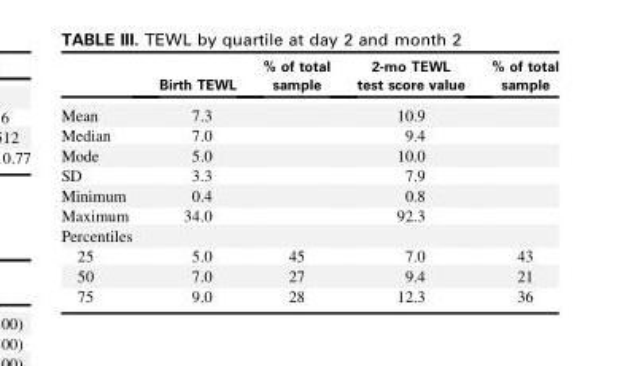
<table><thead><tr><td></td><td>Birth TEWL</td><td>% of total sample</td><td>2-mo TEWL test score value</td><td>% of total sample</td></tr></thead><tbody><tr><td>Mean</td><td>7.3</td><td></td><td>10.9</td><td></td></tr><tr><td>Median</td><td>7.0</td><td></td><td>9.4</td><td></td></tr><tr><td>Mode</td><td>5.0</td><td></td><td>10.0</td><td></td></tr><tr><td>SD</td><td>3.3</td><td></td><td>7.9</td><td></td></tr><tr><td>Minimum</td><td>0.4</td><td></td><td>0.8</td><td></td></tr><tr><td>Maximum</td><td>34.0</td><td></td><td>92.3</td><td></td></tr><tr><td colspan="5">Percentiles</td></tr><tr><td>25</td><td>5.0</td><td>45</td><td>7.0</td><td>43</td></tr><tr><td>50</td><td>7.0</td><td>27</td><td>9.4</td><td>21</td></tr><tr><td>75</td><td>9.0</td><td>28</td><td>12.3</td><td>36</td></tr></tbody></table>